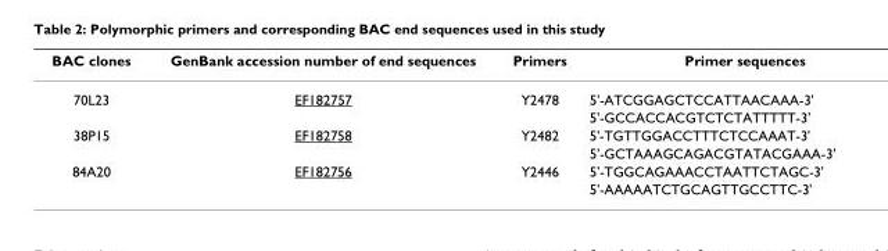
<table><thead><tr><td>BAC clones</td><td>GenBank accession number of end sequences</td><td>Primers</td><td>Primer sequences</td></tr></thead><tbody><tr><td rowspan="2">70L23</td><td>EF182757</td><td>Y2478</td><td>5&#x27;-ATCGGAGCTCCATTAACAAA-3&#x27;</td></tr><tr><td></td><td></td><td>5&#x27;-GCCACCACGTCTCTATTTTT-3&#x27;</td></tr><tr><td rowspan="2">38P15</td><td>EF182758</td><td>Y2482</td><td>5&#x27;-TGTTGGACCTTTCTCCAAAT-3&#x27;</td></tr><tr><td></td><td></td><td>5&#x27;-GCTAAAGCAGACGTATACGAAA-3&#x27;</td></tr><tr><td rowspan="2">84A20</td><td>EF182756</td><td>Y2446</td><td>5&#x27;-TGGCAGAAACCTAATTCTAGC-3&#x27;</td></tr><tr><td></td><td></td><td>5&#x27;-AAAAATCTGCAGTTGCCTTC-3&#x27;</td></tr></tbody></table>